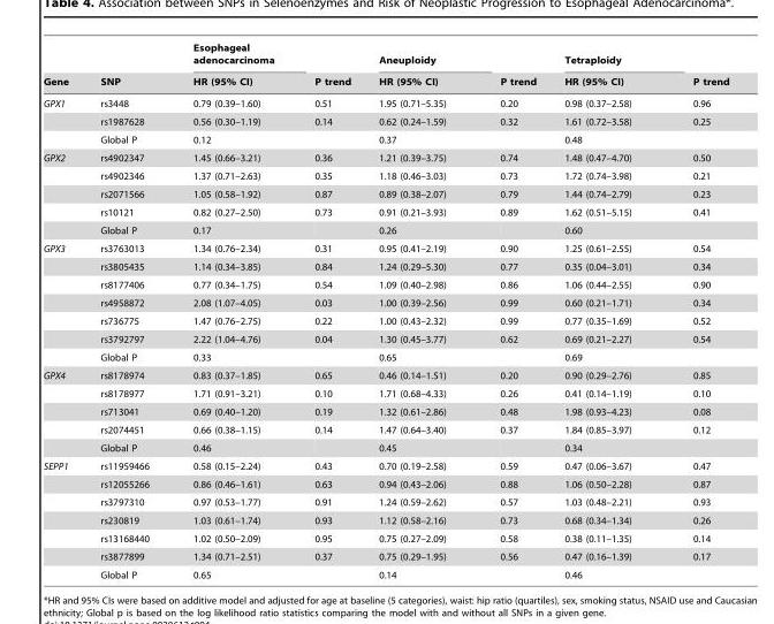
<table><thead><tr><td rowspan="2">Gene</td><td rowspan="2">SNP</td><td rowspan="2">Esophageal adenocarcinoma HR (95% CI)</td><td rowspan="2">P trend</td><td rowspan="2">Aneuploidy HR (95% CI)</td><td rowspan="2">P trend</td><td rowspan="2">Tetraploidy HR (95% CI)</td><td rowspan="2">P trend</td></tr><tr></tr></thead><tbody><tr><td rowspan="3">GPX1</td><td>rs3448</td><td>0.79 (0.39–1.60)</td><td>0.51</td><td>1.95 (0.71–5.35)</td><td>0.20</td><td>0.98 (0.37–2.58)</td><td>0.96</td></tr><tr><td>rs1987628</td><td>0.56 (0.30–1.19)</td><td>0.14</td><td>0.62 (0.24–1.59)</td><td>0.32</td><td>1.61 (0.72–3.58)</td><td>0.25</td></tr><tr><td>Global P</td><td>0.12</td><td></td><td>0.37</td><td></td><td>0.48</td><td></td></tr><tr><td rowspan="5">GPX2</td><td>rs4902347</td><td>1.45 (0.66–3.21)</td><td>0.36</td><td>1.21 (0.39–3.75)</td><td>0.74</td><td>1.48 (0.47–4.70)</td><td>0.50</td></tr><tr><td>rs4902346</td><td>1.37 (0.71–2.63)</td><td>0.35</td><td>1.18 (0.46–3.03)</td><td>0.73</td><td>1.72 (0.74–3.98)</td><td>0.21</td></tr><tr><td>rs2071566</td><td>1.05 (0.58–1.92)</td><td>0.87</td><td>0.89 (0.38–2.07)</td><td>0.79</td><td>1.44 (0.74–2.79)</td><td>0.23</td></tr><tr><td>rs10121</td><td>0.82 (0.27–2.50)</td><td>0.73</td><td>0.91 (0.21–3.93)</td><td>0.89</td><td>1.62 (0.51–5.15)</td><td>0.41</td></tr><tr><td>Global P</td><td>0.17</td><td></td><td>0.26</td><td></td><td>0.60</td><td></td></tr><tr><td rowspan="7">GPX3</td><td>rs3763013</td><td>1.34 (0.76–2.34)</td><td>0.31</td><td>0.95 (0.41–2.19)</td><td>0.90</td><td>1.25 (0.61–2.55)</td><td>0.54</td></tr><tr><td>rs3805435</td><td>1.14 (0.34–3.85)</td><td>0.84</td><td>1.24 (0.29–5.30)</td><td>0.77</td><td>0.35 (0.04–3.01)</td><td>0.34</td></tr><tr><td>rs8177406</td><td>0.77 (0.34–1.75)</td><td>0.54</td><td>1.09 (0.40–2.98)</td><td>0.86</td><td>1.06 (0.44–2.55)</td><td>0.90</td></tr><tr><td>rs4958872</td><td>2.08 (1.07–4.05)</td><td>0.03</td><td>1.00 (0.39–2.56)</td><td>0.99</td><td>0.60 (0.21–1.71)</td><td>0.34</td></tr><tr><td>rs736775</td><td>1.47 (0.76–2.75)</td><td>0.22</td><td>1.00 (0.43–2.32)</td><td>0.99</td><td>0.77 (0.35–1.69)</td><td>0.52</td></tr><tr><td>rs3792797</td><td>2.22 (1.04–4.76)</td><td>0.04</td><td>1.30 (0.45–3.77)</td><td>0.62</td><td>0.69 (0.21–2.27)</td><td>0.54</td></tr><tr><td>Global P</td><td>0.33</td><td></td><td>0.65</td><td></td><td>0.69</td><td></td></tr><tr><td rowspan="5">GPX4</td><td>rs8178974</td><td>0.83 (0.37–1.85)</td><td>0.65</td><td>0.46 (0.14–1.51)</td><td>0.20</td><td>0.90 (0.29–2.76)</td><td>0.85</td></tr><tr><td>rs8178977</td><td>1.71 (0.91–3.21)</td><td>0.10</td><td>1.71 (0.68–4.33)</td><td>0.26</td><td>0.41 (0.14–1.19)</td><td>0.10</td></tr><tr><td>rs713041</td><td>0.69 (0.40–1.20)</td><td>0.19</td><td>1.32 (0.61–2.86)</td><td>0.48</td><td>1.98 (0.93–4.23)</td><td>0.08</td></tr><tr><td>rs2074451</td><td>0.66 (0.38–1.15)</td><td>0.14</td><td>1.47 (0.64–3.40)</td><td>0.37</td><td>1.84 (0.85–3.97)</td><td>0.12</td></tr><tr><td>Global P</td><td>0.46</td><td></td><td>0.45</td><td></td><td>0.34</td><td></td></tr><tr><td rowspan="7">SEPP1</td><td>rs11959466</td><td>0.58 (0.15–2.24)</td><td>0.43</td><td>0.70 (0.19–2.58)</td><td>0.59</td><td>0.47 (0.06–3.67)</td><td>0.47</td></tr><tr><td>rs12055266</td><td>0.86 (0.46–1.61)</td><td>0.63</td><td>0.94 (0.43–2.06)</td><td>0.88</td><td>1.06 (0.50–2.28)</td><td>0.87</td></tr><tr><td>rs3797310</td><td>0.97 (0.53–1.77)</td><td>0.91</td><td>1.24 (0.59–2.62)</td><td>0.57</td><td>1.03 (0.48–2.21)</td><td>0.93</td></tr><tr><td>rs230819</td><td>1.03 (0.61–1.74)</td><td>0.93</td><td>1.12 (0.58–2.16)</td><td>0.73</td><td>0.68 (0.34–1.34)</td><td>0.26</td></tr><tr><td>rs13168440</td><td>1.02 (0.50–2.09)</td><td>0.95</td><td>0.75 (0.27–2.09)</td><td>0.58</td><td>0.38 (0.11–1.35)</td><td>0.14</td></tr><tr><td>rs3877899</td><td>1.34 (0.71–2.51)</td><td>0.37</td><td>0.75 (0.29–1.95)</td><td>0.56</td><td>0.47 (0.16–1.39)</td><td>0.17</td></tr><tr><td>Global P</td><td>0.65</td><td></td><td>0.14</td><td></td><td>0.46</td><td></td></tr></tbody></table>